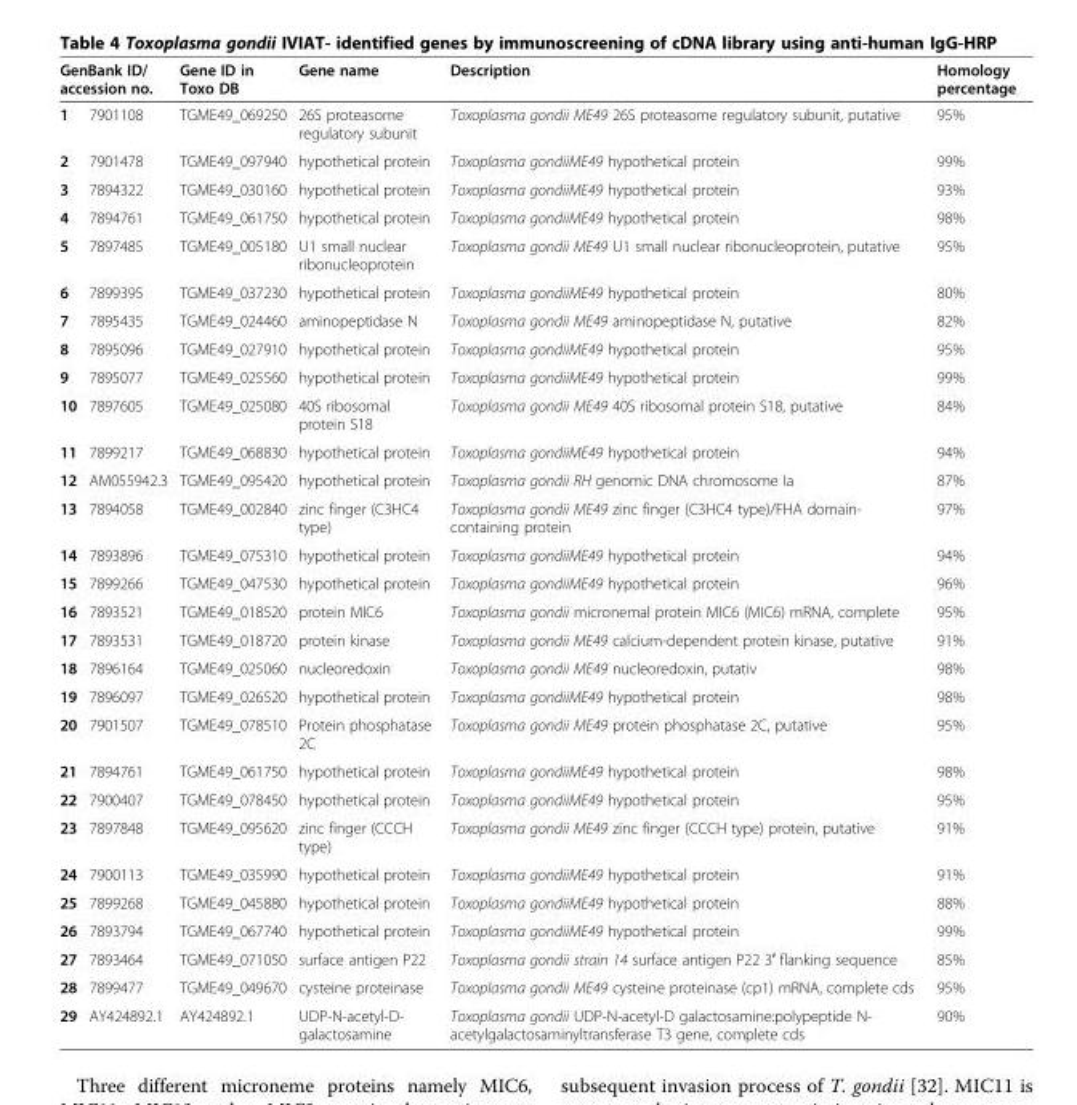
<table><thead><tr><td colspan="2">GenBank ID/ accession no.</td><td rowspan="2">Gene ID in Toxo DB TGME49_069250</td><td rowspan="2">Gene name 26S proteasome regulatory subunit</td><td rowspan="2">Description Toxoplasma gondii ME49 26S proteasome regulatory subunit, putative</td><td rowspan="2">Homology percentage 95%</td></tr><tr><td>1</td><td>7901108</td></tr></thead><tbody><tr><td>2</td><td>7901478</td><td>TGME49_097940</td><td>hypothetical protein</td><td>Toxoplasma gondiiME49 hypothetical protein</td><td>99%</td></tr><tr><td>3</td><td>7894322</td><td>TGME49_030160</td><td>hypothetical protein</td><td>Toxoplasma gondiiME49 hypothetical protein</td><td>93%</td></tr><tr><td>4</td><td>7894761</td><td>TGME49_061750</td><td>hypothetical protein</td><td>Toxoplasma gondiiME49 hypothetical protein</td><td>98%</td></tr><tr><td>5</td><td>7897485</td><td>TGME49_005180</td><td>U1 small nuclear ribonucleoprotein</td><td>Toxoplasma gondii ME49 U1 small nuclear ribonucleoprotein, putative</td><td>95%</td></tr><tr><td>6</td><td>7899395</td><td>TGME49_037230</td><td>hypothetical protein</td><td>Toxoplasma gondiiME49 hypothetical protein</td><td>80%</td></tr><tr><td>7</td><td>7895435</td><td>TGME49_024460</td><td>aminopeptidase N</td><td>Toxoplasma gondii ME49 aminopeptidase N, putative</td><td>82%</td></tr><tr><td>8</td><td>7895096</td><td>TGME49_027910</td><td>hypothetical protein</td><td>Toxoplasma gondiiME49 hypothetical protein</td><td>95%</td></tr><tr><td>9</td><td>7895077</td><td>TGME49_025560</td><td>hypothetical protein</td><td>Toxoplasma gondiiME49 hypothetical protein</td><td>99%</td></tr><tr><td>10</td><td>7897605</td><td>TGME49_025080</td><td>40S ribosomal protein S18</td><td>Toxoplasma gondii ME49 40S ribosomal protein S18, putative</td><td>84%</td></tr><tr><td>11</td><td>7899217</td><td>TGME49_068830</td><td>hypothetical protein</td><td>Toxoplasma gondiiME49 hypothetical protein</td><td>94%</td></tr><tr><td>12</td><td>AM055942.3</td><td>TGME49_095420</td><td>hypothetical protein</td><td>Toxoplasma gondii RH genomic DNA chromosome Ia</td><td>87%</td></tr><tr><td>13</td><td>7894058</td><td>TGME49_002840</td><td>zinc finger (C3HC4 type)</td><td>Toxoplasma gondii ME49 zinc finger (C3HC4 type)/FHA domain- containing protein</td><td>97%</td></tr><tr><td>14</td><td>7893896</td><td>TGME49_075310</td><td>hypothetical protein</td><td>Toxoplasma gondiiME49 hypothetical protein</td><td>94%</td></tr><tr><td>15</td><td>7899266</td><td>TGME49_047530</td><td>hypothetical protein</td><td>Toxoplasma gondiiME49 hypothetical protein</td><td>96%</td></tr><tr><td>16</td><td>7893521</td><td>TGME49_018520</td><td>protein MIC6</td><td>Toxoplasma gondii micronemal protein MIC6 (MIC6) mRNA, complete</td><td>95%</td></tr><tr><td>17</td><td>7893531</td><td>TGME49_018720</td><td>protein kinase</td><td>Toxoplasma gondii ME49 calcium-dependent protein kinase, putative</td><td>91%</td></tr><tr><td>18</td><td>7896164</td><td>TGME49_025060</td><td>nucleoredoxin</td><td>Toxoplasma gondii ME49 nucleoredoxin, putativ</td><td>98%</td></tr><tr><td>19</td><td>7896097</td><td>TGME49_026520</td><td>hypothetical protein</td><td>Toxoplasma gondiiME49 hypothetical protein</td><td>98%</td></tr><tr><td>20</td><td>7901507</td><td>TGME49_078510</td><td>Protein phosphatase 2C</td><td>Toxoplasma gondii ME49 protein phosphatase 2C, putative</td><td>95%</td></tr><tr><td>21</td><td>7894761</td><td>TGME49_061750</td><td>hypothetical protein</td><td>Toxoplasma gondiiME49 hypothetical protein</td><td>98%</td></tr><tr><td>22</td><td>7900407</td><td>TGME49_078450</td><td>hypothetical protein</td><td>Toxoplasma gondiiME49 hypothetical protein</td><td>95%</td></tr><tr><td>23</td><td>7897848</td><td>TGME49_095620</td><td>zinc finger (CCCH type)</td><td>Toxoplasma gondii ME49 zinc finger (CCCH type) protein, putative</td><td>91%</td></tr><tr><td>24</td><td>7900113</td><td>TGME49_035990</td><td>hypothetical protein</td><td>Toxoplasma gondiiME49 hypothetical protein</td><td>91%</td></tr><tr><td>25</td><td>7899268</td><td>TGME49_045880</td><td>hypothetical protein</td><td>Toxoplasma gondiiME49 hypothetical protein</td><td>88%</td></tr><tr><td>26</td><td>7893794</td><td>TGME49_067740</td><td>hypothetical protein</td><td>Toxoplasma gondiiME49 hypothetical protein</td><td>99%</td></tr><tr><td>27</td><td>7893464</td><td>TGME49_071050</td><td>surface antigen P22</td><td>Toxoplasma gondii strain 14 surface antigen P22 3′ flanking sequence</td><td>85%</td></tr><tr><td>28</td><td>7899477</td><td>TGME49_049670</td><td>cysteine proteinase</td><td>Toxoplasma gondii ME49 cysteine proteinase (cp1) mRNA, complete cds</td><td>95%</td></tr><tr><td>29</td><td>AY424892.1</td><td>AY424892.1</td><td>UDP-N-acetyl-D- galactosamine</td><td>Toxoplasma gondii UDP-N-acetyl-D galactosamine:polypeptide N- acetylgalactosaminyltransferase T3 gene, complete cds</td><td>90%</td></tr></tbody></table>